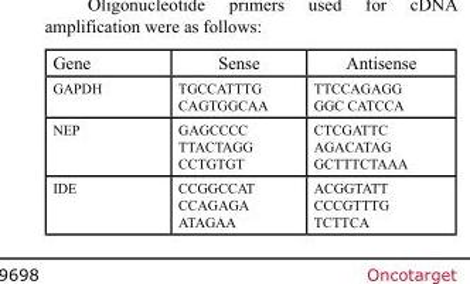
<table><thead><tr><td>Gene</td><td>Sense</td><td>Antisense</td></tr></thead><tbody><tr><td>GAPDH</td><td>TGCCATTTG CAGTGGCAA</td><td>TTCCAGAGG GGC CATCCA</td></tr><tr><td>NEP</td><td>GAGCCCC TTACTAGG CCTGTGT</td><td>CTCGATTC AGACATAG GCTTTCTAAA</td></tr><tr><td>IDE</td><td>CCGGCCAT CCAGAGA ATAGAA</td><td>ACGGTATT CCCGTTTG TCTTCA</td></tr></tbody></table>